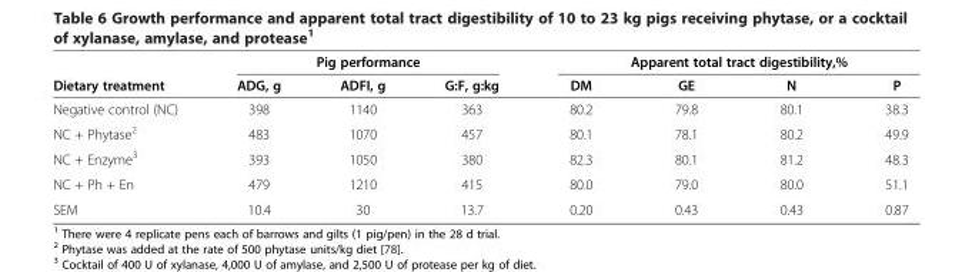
<table><thead><tr><td rowspan="2">Dietary treatment</td><td colspan="3">Pig performance</td><td colspan="4">Apparent total tract digestibility,%</td></tr><tr><td>ADG, g</td><td>ADFI, g</td><td>G:F, g:kg</td><td>DM</td><td>GE</td><td>N</td><td>P</td></tr></thead><tbody><tr><td>Negative control (NC)</td><td>398</td><td>1140</td><td>363</td><td>80.2</td><td>79.8</td><td>80.1</td><td>38.3</td></tr><tr><td>NC + Phytase<sup>2</sup></td><td>483</td><td>1070</td><td>457</td><td>80.1</td><td>78.1</td><td>80.2</td><td>49.9</td></tr><tr><td>NC + Enzyme<sup>3</sup></td><td>393</td><td>1050</td><td>380</td><td>82.3</td><td>80.1</td><td>81.2</td><td>48.3</td></tr><tr><td>NC + Ph + En</td><td>479</td><td>1210</td><td>415</td><td>80.0</td><td>79.0</td><td>80.0</td><td>51.1</td></tr><tr><td>SEM</td><td>10.4</td><td>30</td><td>13.7</td><td>0.20</td><td>0.43</td><td>0.43</td><td>0.87</td></tr></tbody></table>